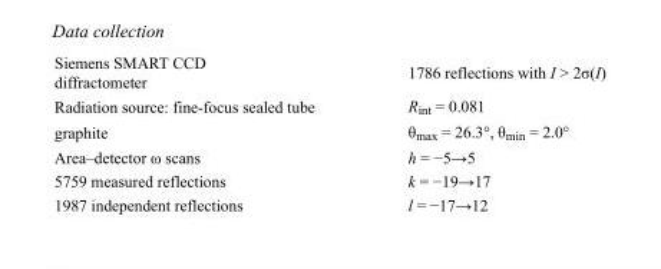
<table><tbody><tr><td>Siemens SMART CCD diffractometer</td><td>1786 reflections with I &gt; 2σ(I)</td></tr><tr><td>Radiation source: fine-focus sealed tube</td><td>R<sub>int</sub> = 0.081</td></tr><tr><td>graphite</td><td>θ<sub>max</sub> = 26.3°, θ<sub>min</sub> = 2.0°</td></tr><tr><td>Area–detector ω scans</td><td>h = −5→5</td></tr><tr><td>5759 measured reflections</td><td>k = −19→17</td></tr><tr><td>1987 independent reflections</td><td>l = −17→12</td></tr></tbody></table>